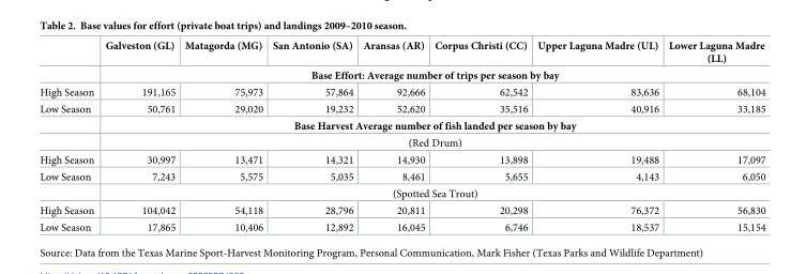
<table><thead><tr><td></td><td>Galveston (GL)</td><td>Matagorda (MG)</td><td>San Antonio (SA)</td><td>Aransas (AR)</td><td>Corpus Christi (CC)</td><td>Upper Laguna Madre (UL)</td><td>Lower Laguna Madre (LL)</td></tr></thead><tbody><tr><td></td><td colspan="7">Base Effort: Average number of trips per season by bay</td></tr><tr><td>High Season</td><td>191,165</td><td>75,973</td><td>57,864</td><td>92,666</td><td>62,542</td><td>83,636</td><td>68,104</td></tr><tr><td rowspan="3">Low Season</td><td>50,761</td><td>29,020</td><td>19,232</td><td>52,620</td><td>35,516</td><td>40,916</td><td>33,185</td></tr><tr><td colspan="7">Base Harvest Average number of fish landed per season by bay</td></tr><tr><td colspan="7">(Red Drum)</td></tr><tr><td>High Season</td><td>30,997</td><td>13,471</td><td>14,321</td><td>14,930</td><td>13,898</td><td>19,488</td><td>17,097</td></tr><tr><td rowspan="2">Low Season</td><td>7,243</td><td>5,575</td><td>5,035</td><td>8,461</td><td>5,655</td><td>4,143</td><td>6,050</td></tr><tr><td colspan="7">(Spotted Sea Trout)</td></tr><tr><td>High Season</td><td>104,042</td><td>54,118</td><td>28,796</td><td>20,811</td><td>20,298</td><td>76,372</td><td>56,830</td></tr><tr><td>Low Season</td><td>17,865</td><td>10,406</td><td>12,892</td><td>16,045</td><td>6,746</td><td>18,537</td><td>15,154</td></tr></tbody></table>